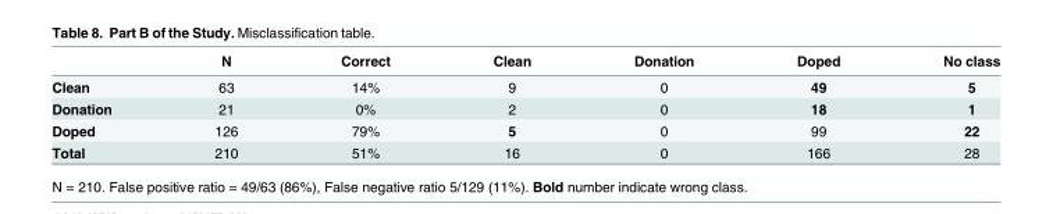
<table><thead><tr><td></td><td>N</td><td>Correct</td><td>Clean</td><td>Donation</td><td>Doped</td><td>No class</td></tr></thead><tbody><tr><td>Clean</td><td>63</td><td>14%</td><td>9</td><td>0</td><td>49</td><td>5</td></tr><tr><td>Donation</td><td>21</td><td>0%</td><td>2</td><td>0</td><td>18</td><td>1</td></tr><tr><td>Doped</td><td>126</td><td>79%</td><td>5</td><td>0</td><td>99</td><td>22</td></tr><tr><td>Total</td><td>210</td><td>51%</td><td>16</td><td>0</td><td>166</td><td>28</td></tr></tbody></table>